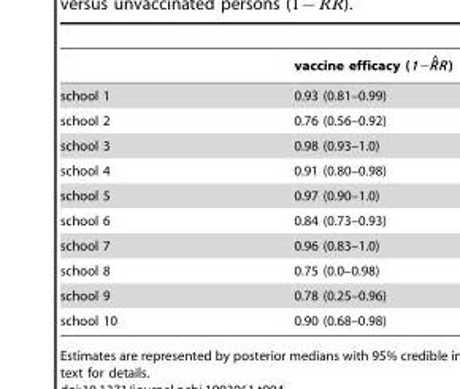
<table><thead><tr><td></td><td>vaccine efficacy</td></tr></thead><tbody><tr><td>school 1</td><td>0.93 (0.81–0.99)</td></tr><tr><td>school 2</td><td>0.76 (0.56–0.92)</td></tr><tr><td>school 3</td><td>0.98 (0.93–1.0)</td></tr><tr><td>school 4</td><td>0.91 (0.80–0.98)</td></tr><tr><td>school 5</td><td>0.97 (0.90–1.0)</td></tr><tr><td>school 6</td><td>0.84 (0.73–0.93)</td></tr><tr><td>school 7</td><td>0.96 (0.83–1.0)</td></tr><tr><td>school 8</td><td>0.75 (0.0–0.98)</td></tr><tr><td>school 9</td><td>0.78 (0.25–0.96)</td></tr><tr><td>school 10</td><td>0.90 (0.68–0.98)</td></tr></tbody></table>